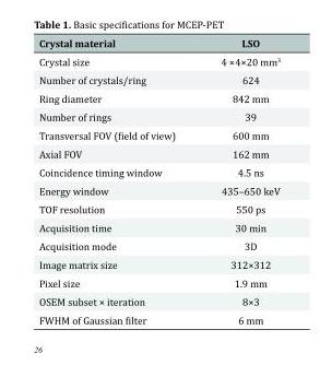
<table><thead><tr><td>Crystal material</td><td>LSO</td></tr></thead><tbody><tr><td>Crystal size</td><td>4 ×4×20 mm<sup>3</sup></td></tr><tr><td>Number of crystals/ring</td><td>624</td></tr><tr><td>Ring diameter</td><td>842 mm</td></tr><tr><td>Number of rings</td><td>39</td></tr><tr><td>Transversal FOV (field of view)</td><td>600 mm</td></tr><tr><td>Axial FOV</td><td>162 mm</td></tr><tr><td>Coincidence timing window</td><td>4.5 ns</td></tr><tr><td>Energy window</td><td>435–650 keV</td></tr><tr><td>TOF resolution</td><td>550 ps</td></tr><tr><td>Acquisition time</td><td>30 min</td></tr><tr><td>Acquisition mode</td><td>3D</td></tr><tr><td>Image matrix size</td><td>312×312</td></tr><tr><td>Pixel size</td><td>1.9 mm</td></tr><tr><td>OSEM subset × iteration</td><td>8×3</td></tr><tr><td>FWHM of Gaussian filter</td><td>6 mm</td></tr></tbody></table>